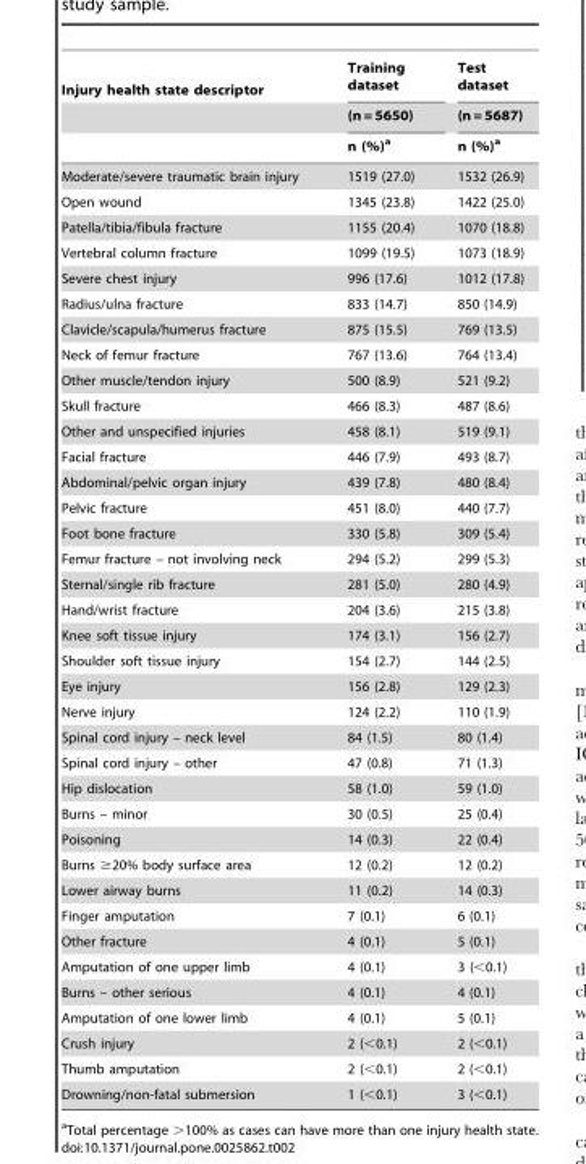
<table><thead><tr><td rowspan="3">Injury health state descriptor</td><td rowspan="3">Training dataset (n = 5650) n (%)<sup>a</sup></td><td rowspan="3">Test dataset (n = 5687) n (%)<sup>a</sup></td></tr><tr></tr><tr></tr></thead><tbody><tr><td>Moderate/severe traumatic brain injury</td><td>1519 (27.0)</td><td>1532 (26.9)</td></tr><tr><td>Open wound</td><td>1345 (23.8)</td><td>1422 (25.0)</td></tr><tr><td>Patella/tibia/fibula fracture</td><td>1155 (20.4)</td><td>1070 (18.8)</td></tr><tr><td>Vertebral column fracture</td><td>1099 (19.5)</td><td>1073 (18.9)</td></tr><tr><td>Severe chest injury</td><td>996 (17.6)</td><td>1012 (17.8)</td></tr><tr><td>Radius/ulna fracture</td><td>833 (14.7)</td><td>850 (14.9)</td></tr><tr><td>Clavicle/scapula/humerus fracture</td><td>875 (15.5)</td><td>769 (13.5)</td></tr><tr><td>Neck of femur fracture</td><td>767 (13.6)</td><td>764 (13.4)</td></tr><tr><td>Other muscle/tendon injury</td><td>500 (8.9)</td><td>521 (9.2)</td></tr><tr><td>Skull fracture</td><td>466 (8.3)</td><td>487 (8.6)</td></tr><tr><td>Other and unspecified injuries</td><td>458 (8.1)</td><td>519 (9.1)</td></tr><tr><td>Facial fracture</td><td>446 (7.9)</td><td>493 (8.7)</td></tr><tr><td>Abdominal/pelvic organ injury</td><td>439 (7.8)</td><td>480 (8.4)</td></tr><tr><td>Pelvic fracture</td><td>451 (8.0)</td><td>440 (7.7)</td></tr><tr><td>Foot bone fracture</td><td>330 (5.8)</td><td>309 (5.4)</td></tr><tr><td>Femur fracture – not involving neck</td><td>294 (5.2)</td><td>299 (5.3)</td></tr><tr><td>Sternal/single rib fracture</td><td>281 (5.0)</td><td>280 (4.9)</td></tr><tr><td>Hand/wrist fracture</td><td>204 (3.6)</td><td>215 (3.8)</td></tr><tr><td>Knee soft tissue injury</td><td>174 (3.1)</td><td>156 (2.7)</td></tr><tr><td>Shoulder soft tissue injury</td><td>154 (2.7)</td><td>144 (2.5)</td></tr><tr><td>Eye injury</td><td>156 (2.8)</td><td>129 (2.3)</td></tr><tr><td>Nerve injury</td><td>124 (2.2)</td><td>110 (1.9)</td></tr><tr><td>Spinal cord injury – neck level</td><td>84 (1.5)</td><td>80 (1.4)</td></tr><tr><td>Spinal cord injury – other</td><td>47 (0.8)</td><td>71 (1.3)</td></tr><tr><td>Hip dislocation</td><td>58 (1.0)</td><td>59 (1.0)</td></tr><tr><td>Burns – minor</td><td>30 (0.5)</td><td>25 (0.4)</td></tr><tr><td>Poisoning</td><td>14 (0.3)</td><td>22 (0.4)</td></tr><tr><td>Burns ≥20% body surface area</td><td>12 (0.2)</td><td>12 (0.2)</td></tr><tr><td>Lower airway burns</td><td>11 (0.2)</td><td>14 (0.3)</td></tr><tr><td>Finger amputation</td><td>7 (0.1)</td><td>6 (0.1)</td></tr><tr><td>Other fracture</td><td>4 (0.1)</td><td>5 (0.1)</td></tr><tr><td>Amputation of one upper limb</td><td>4 (0.1)</td><td>3 (&lt;0.1)</td></tr><tr><td>Burns – other serious</td><td>4 (0.1)</td><td>4 (0.1)</td></tr><tr><td>Amputation of one lower limb</td><td>4 (0.1)</td><td>5 (0.1)</td></tr><tr><td>Crush injury</td><td>2 (&lt;0.1)</td><td>2 (&lt;0.1)</td></tr><tr><td>Thumb amputation</td><td>2 (&lt;0.1)</td><td>2 (&lt;0.1)</td></tr><tr><td>Drowning/non-fatal submersion</td><td>1 (&lt;0.1)</td><td>3 (&lt;0.1)</td></tr></tbody></table>